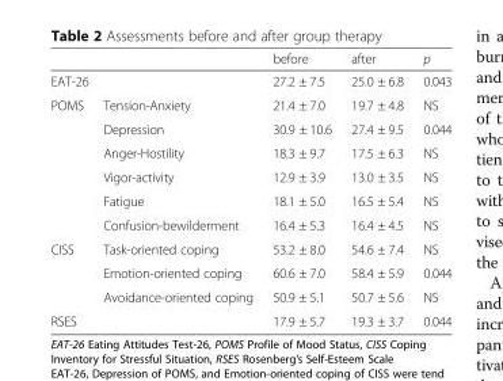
<table><thead><tr><td></td><td></td><td>before</td><td>after</td><td>p</td></tr></thead><tbody><tr><td colspan="2">EAT-26</td><td>27.2 ± 7.5</td><td>25.0 ± 6.8</td><td>0.043</td></tr><tr><td rowspan="6">POMS</td><td>Tension-Anxiety</td><td>21.4 ± 7.0</td><td>19.7 ± 4.8</td><td>NS</td></tr><tr><td>Depression</td><td>30.9 ± 10.6</td><td>27.4 ± 9.5</td><td>0.044</td></tr><tr><td>Anger-Hostility</td><td>18.3 ± 9.7</td><td>17.5 ± 6.3</td><td>NS</td></tr><tr><td>Vigor-activity</td><td>12.9 ± 3.9</td><td>13.0 ± 3.5</td><td>NS</td></tr><tr><td>Fatigue</td><td>18.1 ± 5.0</td><td>16.5 ± 5.4</td><td>NS</td></tr><tr><td>Confusion-bewilderment</td><td>16.4 ± 5.3</td><td>16.4 ± 4.5</td><td>NS</td></tr><tr><td rowspan="3">CISS</td><td>Task-oriented coping</td><td>53.2 ± 8.0</td><td>54.6 ± 7.4</td><td>NS</td></tr><tr><td>Emotion-oriented coping</td><td>60.6 ± 7.0</td><td>58.4 ± 5.9</td><td>0.044</td></tr><tr><td>Avoidance-oriented coping</td><td>50.9 ± 5.1</td><td>50.7 ± 5.6</td><td>NS</td></tr><tr><td>RSES</td><td></td><td>17.9 ± 5.7</td><td>19.3 ± 3.7</td><td>0.044</td></tr></tbody></table>